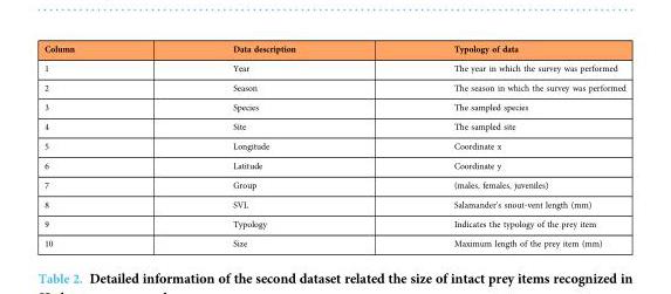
<table><thead><tr><td>Column</td><td>Data description</td><td>Typology of data</td></tr></thead><tbody><tr><td>1</td><td>Year</td><td>The year in which the survey was performed</td></tr><tr><td>2</td><td>Season</td><td>The season in which the survey was performed</td></tr><tr><td>3</td><td>Species</td><td>The sampled species</td></tr><tr><td>4</td><td>Site</td><td>The sampled site</td></tr><tr><td>5</td><td>Longitude</td><td>Coordinate x</td></tr><tr><td>6</td><td>Latitude</td><td>Coordinate y</td></tr><tr><td>7</td><td>Group</td><td>(males, females, juveniles)</td></tr><tr><td>8</td><td>SVL</td><td>Salamander’s snout-vent length (mm)</td></tr><tr><td>9</td><td>Typology</td><td>Indicates the typology of the prey item</td></tr><tr><td>10</td><td>Size</td><td>Maximum length of the prey item (mm)</td></tr></tbody></table>